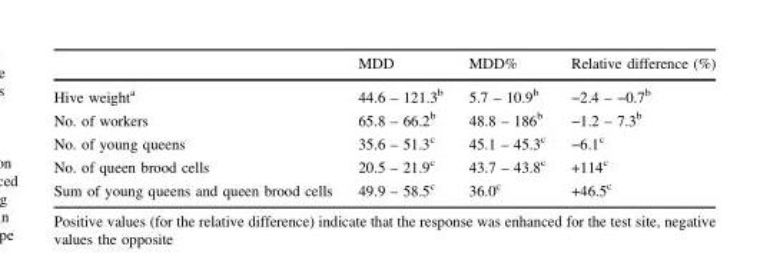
<table><thead><tr><td></td><td>MDD</td><td>MDD%</td><td>Relative difference (%)</td></tr></thead><tbody><tr><td>Hive weight<sup>a</sup></td><td>44.6 – 121.3<sup>b</sup></td><td>5.7 – 10.9<sup>b</sup></td><td>−2.4 – −0.7<sup>b</sup></td></tr><tr><td>No. of workers</td><td>65.8 – 66.2<sup>b</sup></td><td>48.8 – 186<sup>b</sup></td><td>−1.2 – 7.3<sup>b</sup></td></tr><tr><td>No. of young queens</td><td>35.6 – 51.3<sup>c</sup></td><td>45.1 – 45.3<sup>c</sup></td><td>−6.1<sup>c</sup></td></tr><tr><td>No. of queen brood cells</td><td>20.5 – 21.9<sup>c</sup></td><td>43.7 – 43.8<sup>c</sup></td><td>+114<sup>c</sup></td></tr><tr><td>Sum of young queens and queen brood cells</td><td>49.9 – 58.5<sup>c</sup></td><td>36.0<sup>c</sup></td><td>+46.5<sup>c</sup></td></tr></tbody></table>